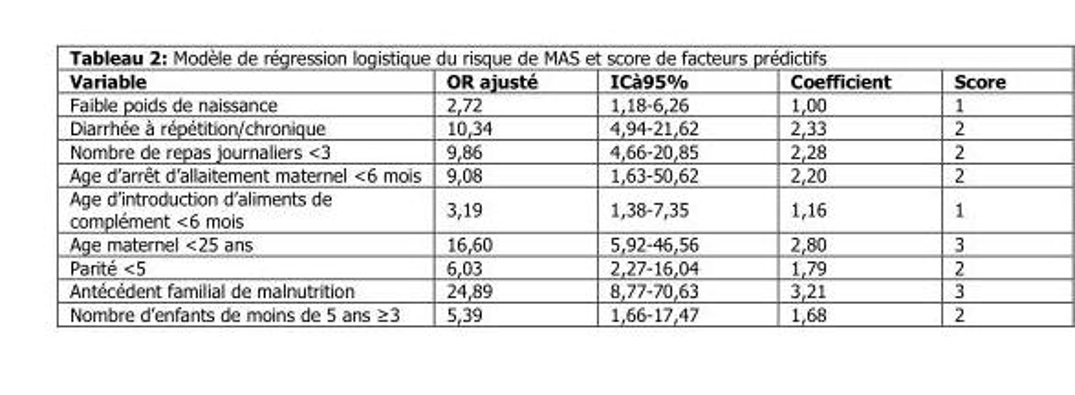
<table><thead><tr><td>Variable</td><td>OR ajusté</td><td>ICà95%</td><td>Coefficient</td><td>Score</td></tr></thead><tbody><tr><td>Faible poids de naissance</td><td>2,72</td><td>1,18-6,26</td><td>1,00</td><td>1</td></tr><tr><td>Diarrhée à répétition/chronique</td><td>10,34</td><td>4,94-21,62</td><td>2,33</td><td>2</td></tr><tr><td>Nombre de repas journaliers &lt;3</td><td>9,86</td><td>4,66-20,85</td><td>2,28</td><td>2</td></tr><tr><td>Age d’arrêt d’allaitement maternel &lt;6 mois</td><td>9,08</td><td>1,63-50,62</td><td>2,20</td><td>2</td></tr><tr><td>Age d’introduction d’aliments de complément &lt;6 mois</td><td>3,19</td><td>1,38-7,35</td><td>1,16</td><td>1</td></tr><tr><td>Age maternel &lt;25 ans</td><td>16,60</td><td>5,92-46,56</td><td>2,80</td><td>3</td></tr><tr><td>Parité &lt;5</td><td>6,03</td><td>2,27-16,04</td><td>1,79</td><td>2</td></tr><tr><td>Antécédent familial de malnutrition</td><td>24,89</td><td>8,77-70,63</td><td>3,21</td><td>3</td></tr><tr><td>Nombre d’enfants de moins de 5 ans ≥3</td><td>5,39</td><td>1,66-17,47</td><td>1,68</td><td>2</td></tr></tbody></table>